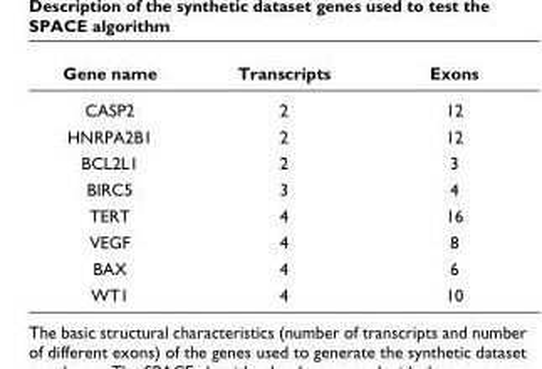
<table><thead><tr><td>Gene name</td><td>Transcripts</td><td>Exons</td></tr></thead><tbody><tr><td>CASP2</td><td>2</td><td>12</td></tr><tr><td>HNRPA2B1</td><td>2</td><td>12</td></tr><tr><td>BCL2L1</td><td>2</td><td>3</td></tr><tr><td>BIRC5</td><td>3</td><td>4</td></tr><tr><td>TERT</td><td>4</td><td>16</td></tr><tr><td>VEGF</td><td>4</td><td>8</td></tr><tr><td>BAX</td><td>4</td><td>6</td></tr><tr><td>WT1</td><td>4</td><td>10</td></tr></tbody></table>